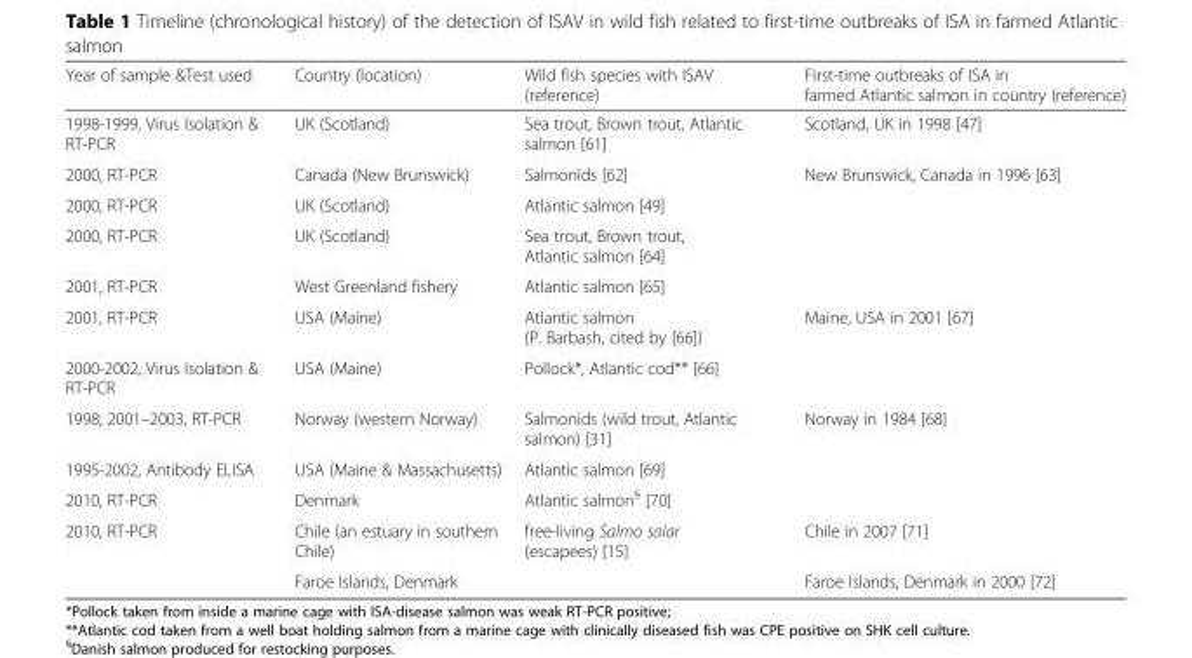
<table><thead><tr><td>Year of sample &amp;Test used</td><td>Country (location)</td><td>Wild fish species with ISAV (reference)</td><td>First-time outbreaks of ISA in farmed Atlantic salmon in country (reference)</td></tr></thead><tbody><tr><td>1998-1999, Virus Isolation &amp; RT-PCR</td><td>UK (Scotland)</td><td>Sea trout, Brown trout, Atlantic salmon [61]</td><td>Scotland, UK in 1998 [47]</td></tr><tr><td>2000, RT-PCR</td><td>Canada (New Brunswick)</td><td>Salmonids [62]</td><td>New Brunswick, Canada in 1996 [63]</td></tr><tr><td>2000, RT-PCR</td><td>UK (Scotland)</td><td>Atlantic salmon [49]</td><td></td></tr><tr><td>2000, RT-PCR</td><td>UK (Scotland)</td><td>Sea trout, Brown trout, Atlantic salmon [64]</td><td></td></tr><tr><td>2001, RT-PCR</td><td>West Greenland fishery</td><td>Atlantic salmon [65]</td><td></td></tr><tr><td>2001, RT-PCR</td><td>USA (Maine)</td><td>Atlantic salmon (P. Barbash, cited by [66])</td><td>Maine, USA in 2001 [67]</td></tr><tr><td>2000-2002, Virus Isolation &amp; RT-PCR</td><td>USA (Maine)</td><td>Pollock*, Atlantic cod** [66]</td><td></td></tr><tr><td>1998; 2001–2003, RT-PCR</td><td>Norway (western Norway)</td><td>Salmonids (wild trout, Atlantic salmon) [31]</td><td>Norway in 1984 [68]</td></tr><tr><td>1995-2002, Antibody ELISA</td><td>USA (Maine &amp; Massachusetts)</td><td>Atlantic salmon [69]</td><td></td></tr><tr><td>2010, RT-PCR</td><td>Denmark</td><td>Atlantic salmon<sup>§</sup> [70]</td><td></td></tr><tr><td rowspan="2">2010, RT-PCR</td><td>Chile (an estuary in southern Chile)</td><td>free-living Salmo salar (escapees) [15]</td><td>Chile in 2007 [71]</td></tr><tr><td>Faroe Islands, Denmark</td><td></td><td>Faroe Islands, Denmark in 2000 [72]</td></tr></tbody></table>